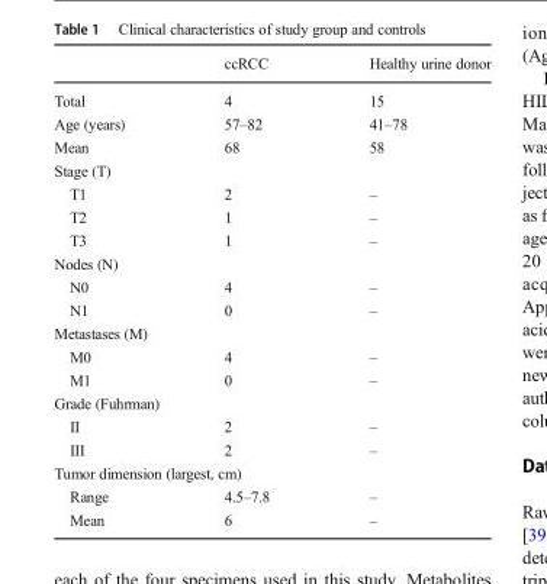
<table><thead><tr><td></td><td>ccRCC</td><td>Healthy urine donor</td></tr></thead><tbody><tr><td>Total</td><td>4</td><td>15</td></tr><tr><td>Age (years)</td><td>57–82</td><td>41–78</td></tr><tr><td>Mean</td><td>68</td><td>58</td></tr><tr><td colspan="3">Stage (T)</td></tr><tr><td>T1</td><td>2</td><td>–</td></tr><tr><td>T2</td><td>1</td><td>–</td></tr><tr><td>T3</td><td>1</td><td>–</td></tr><tr><td colspan="3">Nodes (N)</td></tr><tr><td>N0</td><td>4</td><td>–</td></tr><tr><td>N1</td><td>0</td><td>–</td></tr><tr><td colspan="3">Metastases (M)</td></tr><tr><td>M0</td><td>4</td><td>–</td></tr><tr><td>M1</td><td>0</td><td>–</td></tr><tr><td colspan="3">Grade (Fuhrman)</td></tr><tr><td>II</td><td>2</td><td>–</td></tr><tr><td>III</td><td>2</td><td>–</td></tr><tr><td colspan="3">Tumor dimension (largest, cm)</td></tr><tr><td>Range</td><td>4.5–7.8</td><td>–</td></tr><tr><td>Mean</td><td>6</td><td>–</td></tr></tbody></table>